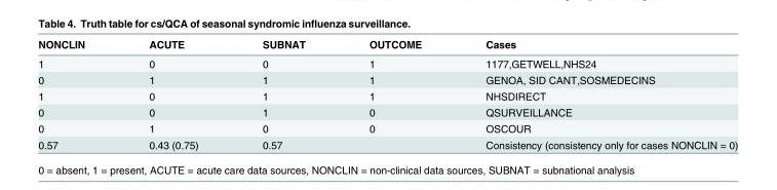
<table><thead><tr><td>NONCLIN</td><td>ACUTE</td><td>SUBNAT</td><td>OUTCOME</td><td>Cases</td></tr></thead><tbody><tr><td>1</td><td>0</td><td>0</td><td>1</td><td>1177,GETWELL,NHS24</td></tr><tr><td>0</td><td>1</td><td>1</td><td>1</td><td>GENOA, SID CANT,SOSMEDECINS</td></tr><tr><td>1</td><td>0</td><td>1</td><td>1</td><td>NHSDIRECT</td></tr><tr><td>0</td><td>0</td><td>1</td><td>0</td><td>QSURVEILLANCE</td></tr><tr><td>0</td><td>1</td><td>0</td><td>0</td><td>OSCOUR</td></tr><tr><td>0.57</td><td>0.43 (0.75)</td><td>0.57</td><td></td><td>Consistency (consistency only for cases NONCLIN = 0)</td></tr></tbody></table>